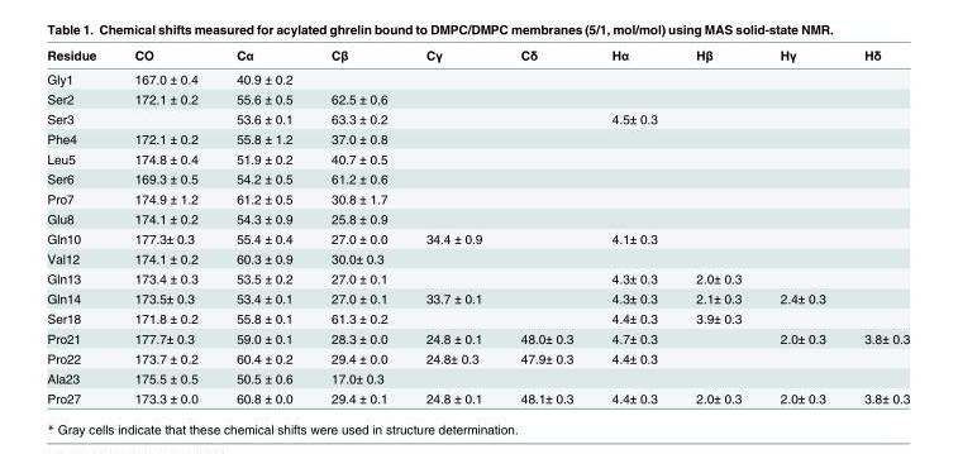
<table><thead><tr><td>Residue</td><td>CO</td><td>Cα</td><td>Cβ</td><td>Cγ</td><td>Cδ</td><td>Hα</td><td>Hβ</td><td>Hγ</td><td>Hδ</td></tr></thead><tbody><tr><td>Gly1</td><td>167.0 ± 0.4</td><td>40.9 ± 0.2</td><td></td><td></td><td></td><td></td><td></td><td></td><td></td></tr><tr><td>Ser2</td><td>172.1 ± 0.2</td><td>55.6 ± 0.5</td><td>62.5 ± 0.6</td><td></td><td></td><td></td><td></td><td></td><td></td></tr><tr><td>Ser3</td><td></td><td>53.6 ± 0.1</td><td>63.3 ± 0.2</td><td></td><td></td><td>4.5± 0.3</td><td></td><td></td><td></td></tr><tr><td>Phe4</td><td>172.1 ± 0.2</td><td>55.8 ± 1.2</td><td>37.0 ± 0.8</td><td></td><td></td><td></td><td></td><td></td><td></td></tr><tr><td>Leu5</td><td>174.8 ± 0.4</td><td>51.9 ± 0.2</td><td>40.7 ± 0.5</td><td></td><td></td><td></td><td></td><td></td><td></td></tr><tr><td>Ser6</td><td>169.3 ± 0.5</td><td>54.2 ± 0.5</td><td>61.2 ± 0.6</td><td></td><td></td><td></td><td></td><td></td><td></td></tr><tr><td>Pro7</td><td>174.9 ± 1.2</td><td>61.2 ± 0.5</td><td>30.8 ± 1.7</td><td></td><td></td><td></td><td></td><td></td><td></td></tr><tr><td>Glu8</td><td>174.1 ± 0.2</td><td>54.3 ± 0.9</td><td>25.8 ± 0.9</td><td></td><td></td><td></td><td></td><td></td><td></td></tr><tr><td>Gln10</td><td>177.3± 0.3</td><td>55.4 ± 0.4</td><td>27.0 ± 0.0</td><td>34.4 ± 0.9</td><td></td><td>4.1± 0.3</td><td></td><td></td><td></td></tr><tr><td>Val12</td><td>174.1 ± 0.2</td><td>60.3 ± 0.9</td><td>30.0± 0.3</td><td></td><td></td><td></td><td></td><td></td><td></td></tr><tr><td>Gln13</td><td>173.4 ± 0.3</td><td>53.5 ± 0.2</td><td>27.0 ± 0.1</td><td></td><td></td><td>4.3± 0.3</td><td>2.0± 0.3</td><td></td><td></td></tr><tr><td>Gln14</td><td>173.5± 0.3</td><td>53.4 ± 0.1</td><td>27.0 ± 0.1</td><td>33.7 ± 0.1</td><td></td><td>4.3± 0.3</td><td>2.1± 0.3</td><td>2.4± 0.3</td><td></td></tr><tr><td>Ser18</td><td>171.8 ± 0.2</td><td>55.8 ± 0.1</td><td>61.3 ± 0.2</td><td></td><td></td><td>4.4± 0.3</td><td>3.9± 0.3</td><td></td><td></td></tr><tr><td>Pro21</td><td>177.7± 0.3</td><td>59.0 ± 0.1</td><td>28.3 ± 0.0</td><td>24.8 ± 0.1</td><td>48.0± 0.3</td><td>4.7± 0.3</td><td></td><td>2.0± 0.3</td><td>3.8± 0.3</td></tr><tr><td>Pro22</td><td>173.7 ± 0.2</td><td>60.4 ± 0.2</td><td>29.4 ± 0.0</td><td>24.8± 0.3</td><td>47.9± 0.3</td><td>4.4± 0.3</td><td></td><td></td><td></td></tr><tr><td>Ala23</td><td>175.5 ± 0.5</td><td>50.5 ± 0.6</td><td>17.0± 0.3</td><td></td><td></td><td></td><td></td><td></td><td></td></tr><tr><td>Pro27</td><td>173.3 ± 0.0</td><td>60.8 ± 0.0</td><td>29.4 ± 0.1</td><td>24.8 ± 0.1</td><td>48.1± 0.3</td><td>4.4± 0.3</td><td>2.0± 0.3</td><td>2.0± 0.3</td><td>3.8± 0.3</td></tr></tbody></table>